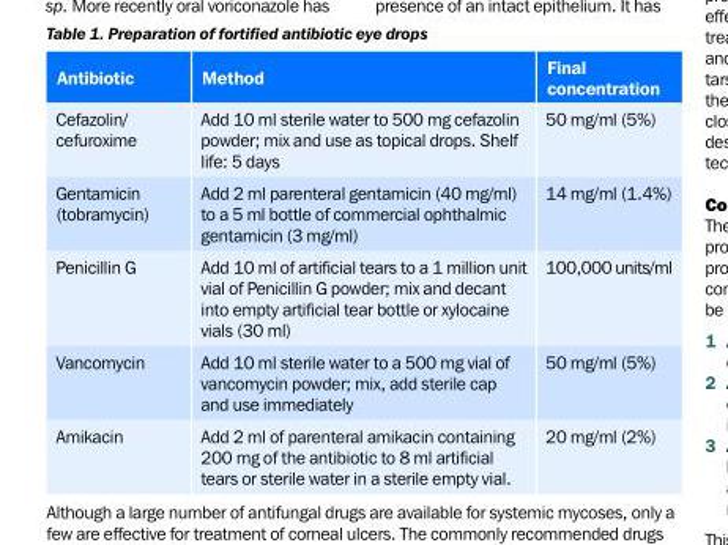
<table><thead><tr><td>Antibiotic</td><td>Method</td><td>Final concentration</td></tr></thead><tbody><tr><td>Cefazolin/ cefuroxime</td><td>Add 10 ml sterile water to 500 mg cefazolin powder; mix and use as topical drops. Shelf life: 5 days</td><td>50 mg/ml (5%)</td></tr><tr><td>Gentamicin (tobramycin)</td><td>Add 2 ml parenteral gentamicin (40 mg/ml) to a 5 ml bottle of commercial ophthalmic gentamicin (3 mg/ml)</td><td>14 mg/ml (1.4%)</td></tr><tr><td>Penicillin G</td><td>Add 10 ml of artificial tears to a 1 million unit vial of Penicillin G powder; mix and decant into empty artificial tear bottle or xylocaine vials (30 ml)</td><td>100,000 units/ml</td></tr><tr><td>Vancomycin</td><td>Add 10 ml sterile water to a 500 mg vial of vancomycin powder; mix, add sterile cap and use immediately</td><td>50 mg/ml (5%)</td></tr><tr><td>Amikacin</td><td>Add 2 ml of parenteral amikacin containing 200 mg of the antibiotic to 8 ml artificial tears or sterile water in a sterile empty vial.</td><td>20 mg/ml (2%)</td></tr></tbody></table>